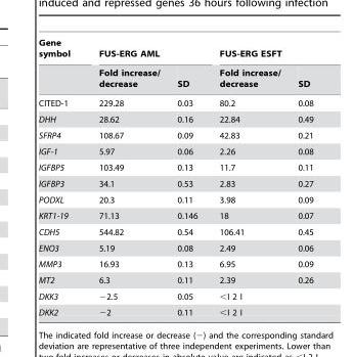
<table><thead><tr><td rowspan="2">Gene symbol</td><td colspan="2">FUS-ERG AML</td><td colspan="2">FUS-ERG ESFT</td></tr><tr><td>Fold increase/ decrease</td><td>SD</td><td>Fold increase/ decrease</td><td>SD</td></tr></thead><tbody><tr><td>CITED-1</td><td>229.28</td><td>0.03</td><td>80.2</td><td>0.08</td></tr><tr><td>DHH</td><td>28.62</td><td>0.16</td><td>22.84</td><td>0.49</td></tr><tr><td>SFRP4</td><td>108.67</td><td>0.09</td><td>42.83</td><td>0.21</td></tr><tr><td>IGF-1</td><td>5.97</td><td>0.06</td><td>2.26</td><td>0.08</td></tr><tr><td>IGFBP5</td><td>103.49</td><td>0.13</td><td>11.7</td><td>0.11</td></tr><tr><td>IGFBP3</td><td>34.1</td><td>0.53</td><td>2.83</td><td>0.27</td></tr><tr><td>PODXL</td><td>20.3</td><td>0.11</td><td>3.98</td><td>0.09</td></tr><tr><td>KRT1-19</td><td>71.13</td><td>0.146</td><td>18</td><td>0.07</td></tr><tr><td>CDH5</td><td>544.82</td><td>0.54</td><td>106.41</td><td>0.45</td></tr><tr><td>ENO3</td><td>5.19</td><td>0.08</td><td>2.49</td><td>0.06</td></tr><tr><td>MMP3</td><td>16.93</td><td>0.13</td><td>6.95</td><td>0.09</td></tr><tr><td>MT2</td><td>6.3</td><td>0.11</td><td>2.39</td><td>0.26</td></tr><tr><td>DKK3</td><td>−2.5</td><td>0.05</td><td>&lt;I 2 I</td><td></td></tr><tr><td>DKK2</td><td>−2</td><td>0.11</td><td>&lt;I 2 I</td><td></td></tr></tbody></table>